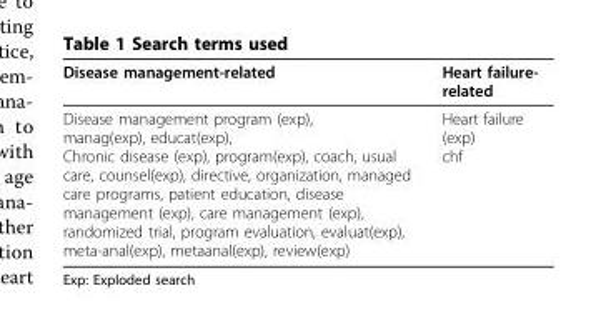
<table><thead><tr><td>Disease management-related</td><td>Heart failure- related</td></tr></thead><tbody><tr><td>Disease management program (exp), manag(exp), educat(exp), Chronic disease (exp), program(exp), coach, usual care, counsel(exp), directive, organization, managed care programs, patient education, disease management (exp), care management (exp), randomized trial, program evaluation, evaluat(exp), meta-anal(exp), metaanal(exp), review(exp)</td><td>Heart failure (exp) chf</td></tr></tbody></table>